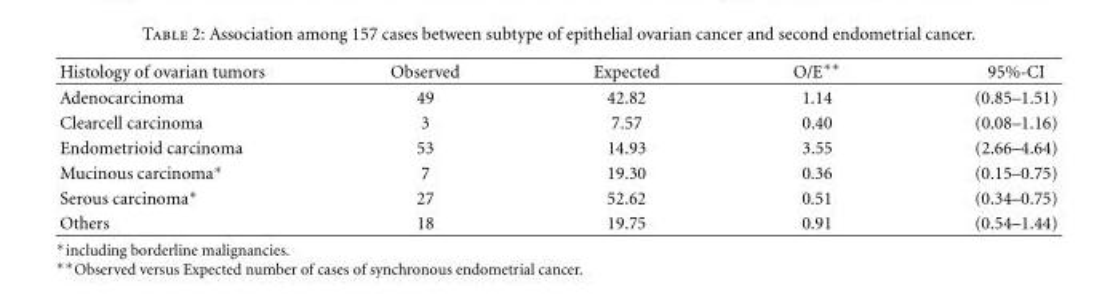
<table><thead><tr><td>Histology of ovarian tumors</td><td>Observed</td><td>Expected</td><td>O/E∗∗</td><td>95%-CI</td></tr></thead><tbody><tr><td>Adenocarcinoma</td><td>49</td><td>42.82</td><td>1.14</td><td>(0.85–1.51)</td></tr><tr><td>Clearcell carcinoma</td><td>3</td><td>7.57</td><td>0.40</td><td>(0.08–1.16)</td></tr><tr><td>Endometrioid carcinoma</td><td>53</td><td>14.93</td><td>3.55</td><td>(2.66–4.64)</td></tr><tr><td>Mucinous carcinoma∗</td><td>7</td><td>19.30</td><td>0.36</td><td>(0.15–0.75)</td></tr><tr><td>Serous carcinoma∗</td><td>27</td><td>52.62</td><td>0.51</td><td>(0.34–0.75)</td></tr><tr><td>Others</td><td>18</td><td>19.75</td><td>0.91</td><td>(0.54–1.44)</td></tr></tbody></table>